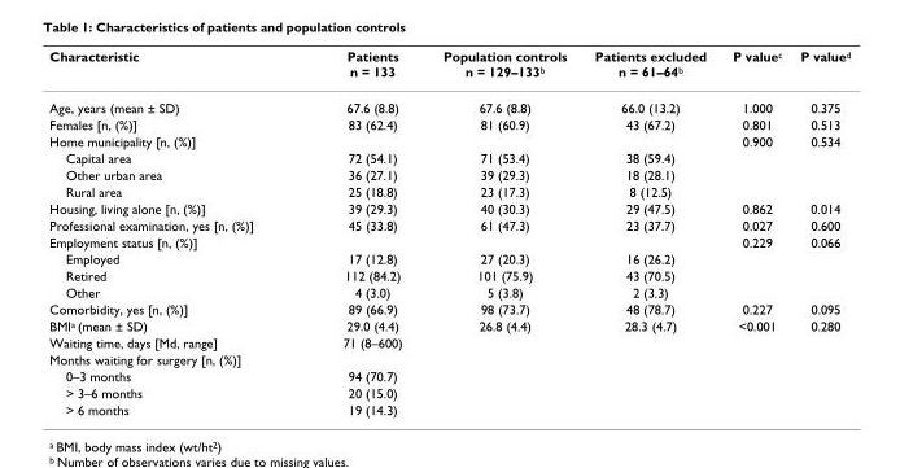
<table><thead><tr><td>Characteristic</td><td>Patients n = 133</td><td>Population controls n = 129–133<sup>b</sup></td><td>Patients excluded n = 61–64<sup>b</sup></td><td>P value<sup>c</sup></td><td>P value<sup>d</sup></td></tr></thead><tbody><tr><td>Age, years (mean ± SD)</td><td>67.6 (8.8)</td><td>67.6 (8.8)</td><td>66.0 (13.2)</td><td>1.000</td><td>0.375</td></tr><tr><td>Females [n, (%)]</td><td>83 (62.4)</td><td>81 (60.9)</td><td>43 (67.2)</td><td>0.801</td><td>0.513</td></tr><tr><td>Home municipality [n, (%)]</td><td></td><td></td><td></td><td>0.900</td><td>0.534</td></tr><tr><td>Capital area</td><td>72 (54.1)</td><td>71 (53.4)</td><td>38 (59.4)</td><td></td><td></td></tr><tr><td>Other urban area</td><td>36 (27.1)</td><td>39 (29.3)</td><td>18 (28.1)</td><td></td><td></td></tr><tr><td>Rural area</td><td>25 (18.8)</td><td>23 (17.3)</td><td>8 (12.5)</td><td></td><td></td></tr><tr><td>Housing, living alone [n, (%)]</td><td>39 (29.3)</td><td>40 (30.3)</td><td>29 (47.5)</td><td>0.862</td><td>0.014</td></tr><tr><td>Professional examination, yes [n, (%)]</td><td>45 (33.8)</td><td>61 (47.3)</td><td>23 (37.7)</td><td>0.027</td><td>0.600</td></tr><tr><td>Employment status [n, (%)]</td><td></td><td></td><td></td><td>0.229</td><td>0.066</td></tr><tr><td>Employed</td><td>17 (12.8)</td><td>27 (20.3)</td><td>16 (26.2)</td><td></td><td></td></tr><tr><td>Retired</td><td>112 (84.2)</td><td>101 (75.9)</td><td>43 (70.5)</td><td></td><td></td></tr><tr><td>Other</td><td>4 (3.0)</td><td>5 (3.8)</td><td>2 (3.3)</td><td></td><td></td></tr><tr><td>Comorbidity, yes [n, (%)]</td><td>89 (66.9)</td><td>98 (73.7)</td><td>48 (78.7)</td><td>0.227</td><td>0.095</td></tr><tr><td>BMI<sup>a</sup> (mean ± SD)</td><td>29.0 (4.4)</td><td>26.8 (4.4)</td><td>28.3 (4.7)</td><td>&lt;0.001</td><td>0.280</td></tr><tr><td>Waiting time, days [Md, range]</td><td>71 (8–600)</td><td></td><td></td><td></td><td></td></tr><tr><td colspan="6">Months waiting for surgery [n, (%)]</td></tr><tr><td>0–3 months</td><td>94 (70.7)</td><td></td><td></td><td></td><td></td></tr><tr><td>&gt; 3–6 months</td><td>20 (15.0)</td><td></td><td></td><td></td><td></td></tr><tr><td>&gt; 6 months</td><td>19 (14.3)</td><td></td><td></td><td></td><td></td></tr></tbody></table>